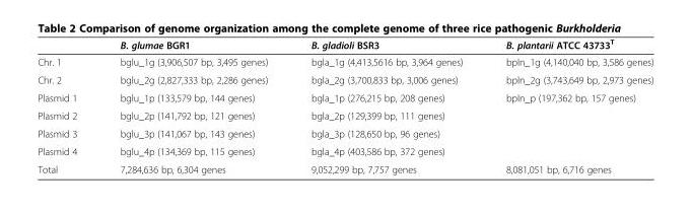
<table><thead><tr><td></td><td>B. glumae BGR1</td><td>B. gladioli BSR3</td><td>B. plantarii ATCC 43733<sup>T</sup></td></tr></thead><tbody><tr><td>Chr. 1</td><td>bglu_1g (3,906,507 bp, 3,495 genes)</td><td>bgla_1g (4,413,5616 bp, 3,964 genes)</td><td>bpln_1g (4,140,040 bp, 3,586 genes)</td></tr><tr><td>Chr. 2</td><td>bglu_2g (2,827,333 bp, 2,286 genes)</td><td>bgla_2g (3,700,833 bp, 3,006 genes)</td><td>bpln_2g (3,743,649 bp, 2,973 genes)</td></tr><tr><td>Plasmid 1</td><td>bglu_1p (133,579 bp, 144 genes)</td><td>bgla_1p (276,215 bp, 208 genes)</td><td>bpln_p (197,362 bp, 157 genes)</td></tr><tr><td>Plasmid 2</td><td>bglu_2p (141,792 bp, 121 genes)</td><td>bgla_2p (129,399 bp, 111 genes)</td><td></td></tr><tr><td>Plasmid 3</td><td>bglu_3p (141,067 bp, 143 genes)</td><td>bgla_3p (128,650 bp, 96 genes)</td><td></td></tr><tr><td>Plasmid 4</td><td>bglu_4p (134,369 bp, 115 genes)</td><td>bgla_4p (403,586 bp, 372 genes)</td><td></td></tr><tr><td>Total</td><td>7,284,636 bp, 6,304 genes</td><td>9,052,299 bp, 7,757 genes</td><td>8,081,051 bp, 6,716 genes</td></tr></tbody></table>